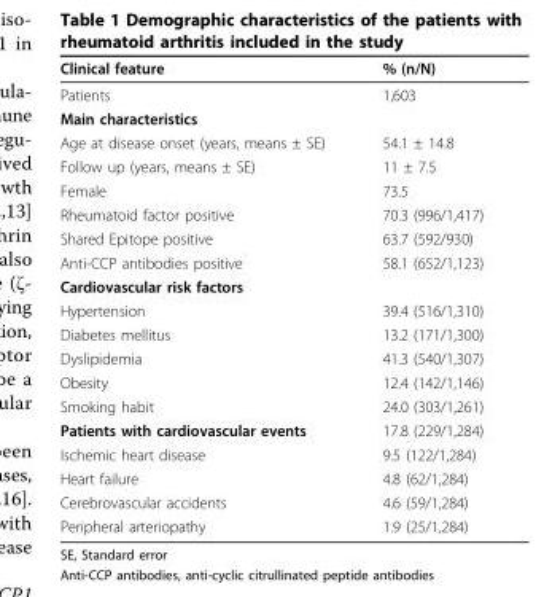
<table><thead><tr><td>Clinical feature</td><td>% (n/N)</td></tr></thead><tbody><tr><td>Patients</td><td>1,603</td></tr><tr><td colspan="2">Main characteristics</td></tr><tr><td>Age at disease onset (years, means ± SE)</td><td>54.1 ± 14.8</td></tr><tr><td>Follow up (years, means ± SE)</td><td>11 ± 7.5</td></tr><tr><td>Female</td><td>73.5</td></tr><tr><td>Rheumatoid factor positive</td><td>70.3 (996/1,417)</td></tr><tr><td>Shared Epitope positive</td><td>63.7 (592/930)</td></tr><tr><td>Anti-CCP antibodies positive</td><td>58.1 (652/1,123)</td></tr><tr><td colspan="2">Cardiovascular risk factors</td></tr><tr><td>Hypertension</td><td>39.4 (516/1,310)</td></tr><tr><td>Diabetes mellitus</td><td>13.2 (171/1,300)</td></tr><tr><td>Dyslipidemia</td><td>41.3 (540/1,307)</td></tr><tr><td>Obesity</td><td>12.4 (142/1,146)</td></tr><tr><td>Smoking habit</td><td>24.0 (303/1,261)</td></tr><tr><td>Patients with cardiovascular events</td><td>17.8 (229/1,284)</td></tr><tr><td>Ischemic heart disease</td><td>9.5 (122/1,284)</td></tr><tr><td>Heart failure</td><td>4.8 (62/1,284)</td></tr><tr><td>Cerebrovascular accidents</td><td>4.6 (59/1,284)</td></tr><tr><td>Peripheral arteriopathy</td><td>1.9 (25/1,284)</td></tr></tbody></table>